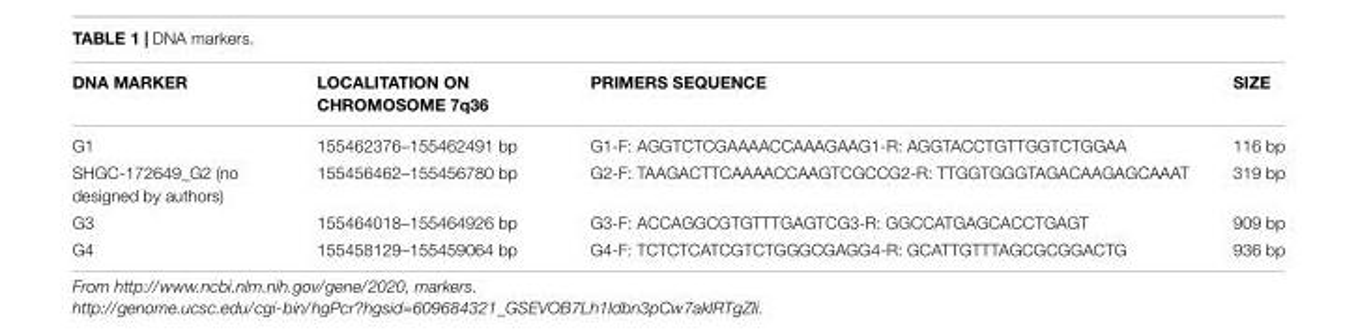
<table><thead><tr><td>DNA MARKER</td><td>LOCALITATION ON CHROMOSOME 7q36</td><td>PRIMERS SEQUENCE</td><td>SIZE</td></tr></thead><tbody><tr><td>G1</td><td>155462376–155462491 bp</td><td>G1-F: AGGTCTCGAAAACCAAAGAAG1-R: AGGTACCTGTTGGTCTGGAA</td><td>116 bp</td></tr><tr><td>SHGC-172649_G2 (no designed by authors)</td><td>155456462–155456780 bp</td><td>G2-F: TAAGACTTCAAAACCAAGTCGCCG2-R: TTGGTGGGTAGACAAGAGCAAAT</td><td>319 bp</td></tr><tr><td>G3</td><td>155464018–155464926 bp</td><td>G3-F: ACCAGGCGTGTTTGAGTCG3-R: GGCCATGAGCACCTGAGT</td><td>909 bp</td></tr><tr><td>G4</td><td>155458129–155459064 bp</td><td>G4-F: TCTCTCATCGTCTGGGCGAGG4-R: GCATTGTTTAGCGCGGACTG</td><td>936 bp</td></tr></tbody></table>